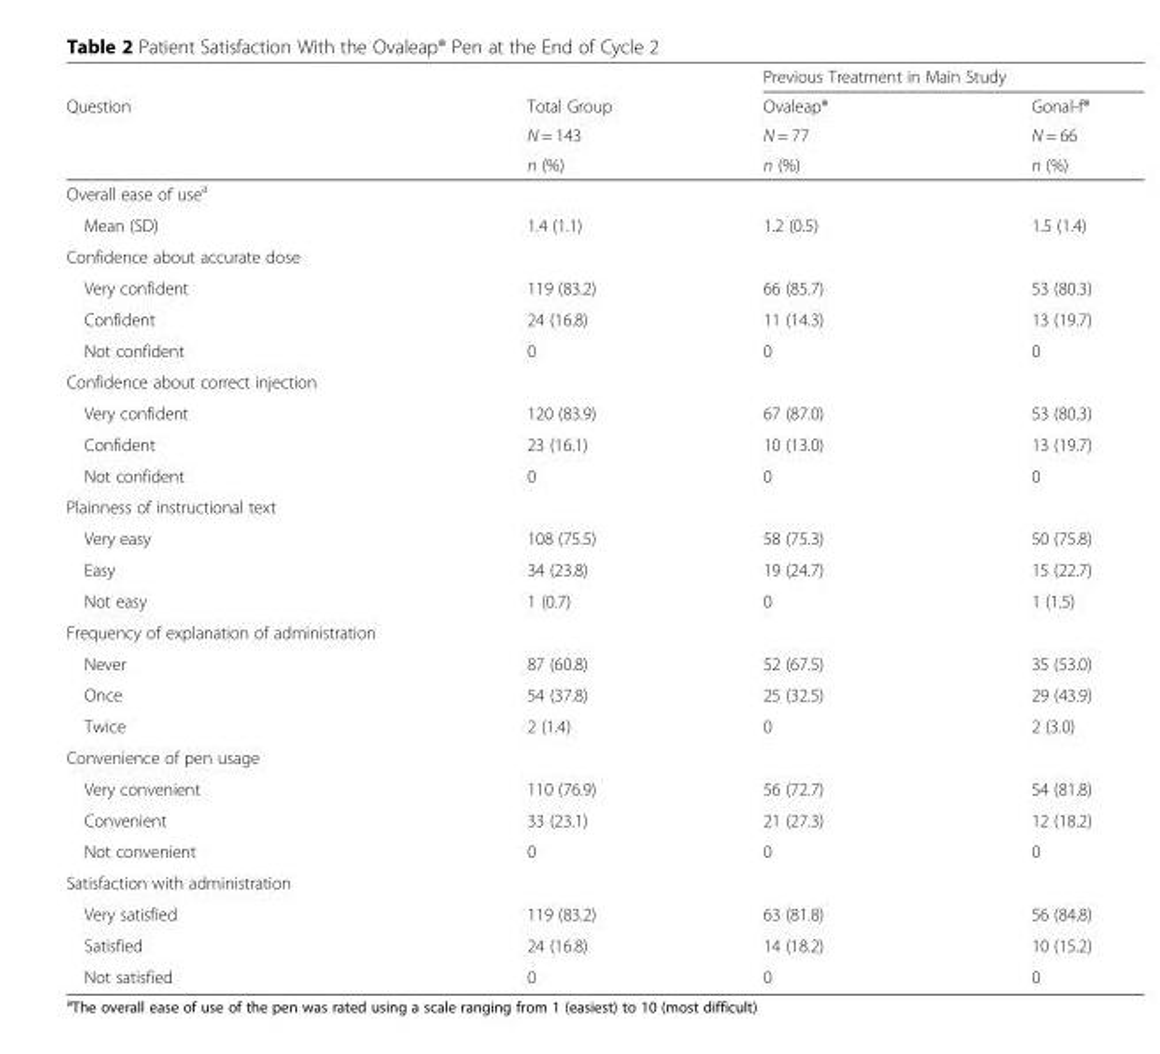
<table><thead><tr><td rowspan="4">Question</td><td rowspan="4">Total Group N = 143 n (%)</td><td colspan="2">Previous Treatment in Main Study</td></tr><tr><td rowspan="3">Ovaleap® N = 77 n (%)</td><td rowspan="3">Gonal-f® N = 66 n (%)</td></tr><tr></tr><tr></tr></thead><tbody><tr><td colspan="4">Overall ease of use<sup>a</sup></td></tr><tr><td>Mean (SD)</td><td>1.4 (1.1)</td><td>1.2 (0.5)</td><td>1.5 (1.4)</td></tr><tr><td colspan="4">Confidence about accurate dose</td></tr><tr><td>Very confident</td><td>119 (83.2)</td><td>66 (85.7)</td><td>53 (80.3)</td></tr><tr><td>Confident</td><td>24 (16.8)</td><td>11 (14.3)</td><td>13 (19.7)</td></tr><tr><td>Not confident</td><td>0</td><td>0</td><td>0</td></tr><tr><td colspan="4">Confidence about correct injection</td></tr><tr><td>Very confident</td><td>120 (83.9)</td><td>67 (87.0)</td><td>53 (80.3)</td></tr><tr><td>Confident</td><td>23 (16.1)</td><td>10 (13.0)</td><td>13 (19.7)</td></tr><tr><td>Not confident</td><td>0</td><td>0</td><td>0</td></tr><tr><td colspan="4">Plainness of instructional text</td></tr><tr><td>Very easy</td><td>108 (75.5)</td><td>58 (75.3)</td><td>50 (75.8)</td></tr><tr><td>Easy</td><td>34 (23.8)</td><td>19 (24.7)</td><td>15 (22.7)</td></tr><tr><td>Not easy</td><td>1 (0.7)</td><td>0</td><td>1 (1.5)</td></tr><tr><td colspan="4">Frequency of explanation of administration</td></tr><tr><td>Never</td><td>87 (60.8)</td><td>52 (67.5)</td><td>35 (53.0)</td></tr><tr><td>Once</td><td>54 (37.8)</td><td>25 (32.5)</td><td>29 (43.9)</td></tr><tr><td>Twice</td><td>2 (1.4)</td><td>0</td><td>2 (3.0)</td></tr><tr><td colspan="4">Convenience of pen usage</td></tr><tr><td>Very convenient</td><td>110 (76.9)</td><td>56 (72.7)</td><td>54 (81.8)</td></tr><tr><td>Convenient</td><td>33 (23.1)</td><td>21 (27.3)</td><td>12 (18.2)</td></tr><tr><td>Not convenient</td><td>0</td><td>0</td><td>0</td></tr><tr><td colspan="4">Satisfaction with administration</td></tr><tr><td>Very satisfied</td><td>119 (83.2)</td><td>63 (81.8)</td><td>56 (84.8)</td></tr><tr><td>Satisfied</td><td>24 (16.8)</td><td>14 (18.2)</td><td>10 (15.2)</td></tr><tr><td>Not satisfied</td><td>0</td><td>0</td><td>0</td></tr></tbody></table>